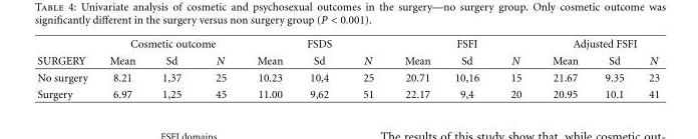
<table><thead><tr><td rowspan="2">SURGERY</td><td colspan="3">Cosmetic outcome</td><td colspan="3">FSDS</td><td colspan="3">FSFI</td><td colspan="3">Adjusted FSFI</td></tr><tr><td>Mean</td><td>Sd</td><td>N</td><td>Mean</td><td>Sd</td><td>N</td><td>Mean</td><td>Sd</td><td>N</td><td>Mean</td><td>Sd</td><td>N</td></tr></thead><tbody><tr><td>No surgery</td><td>8.21</td><td>1,37</td><td>25</td><td>10.23</td><td>10,4</td><td>25</td><td>20.71</td><td>10,16</td><td>15</td><td>21.67</td><td>9.35</td><td>23</td></tr><tr><td>Surgery</td><td>6.97</td><td>1,25</td><td>45</td><td>11.00</td><td>9,62</td><td>51</td><td>22.17</td><td>9,4</td><td>20</td><td>20.95</td><td>10.1</td><td>41</td></tr></tbody></table>